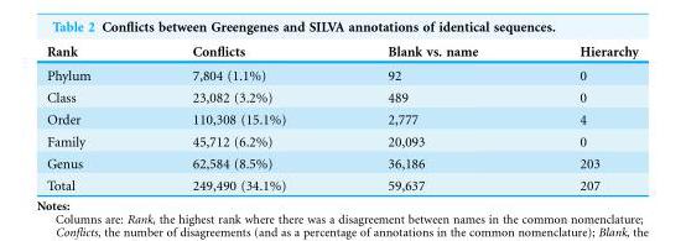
<table><thead><tr><td>Rank</td><td>Conflicts</td><td>Blank vs. name</td><td>Hierarchy</td></tr></thead><tbody><tr><td>Phylum</td><td>7,804 (1.1%)</td><td>92</td><td>0</td></tr><tr><td>Class</td><td>23,082 (3.2%)</td><td>489</td><td>0</td></tr><tr><td>Order</td><td>110,308 (15.1%)</td><td>2,777</td><td>4</td></tr><tr><td>Family</td><td>45,712 (6.2%)</td><td>20,093</td><td>0</td></tr><tr><td>Genus</td><td>62,584 (8.5%)</td><td>36,186</td><td>203</td></tr><tr><td>Total</td><td>249,490 (34.1%)</td><td>59,637</td><td>207</td></tr></tbody></table>